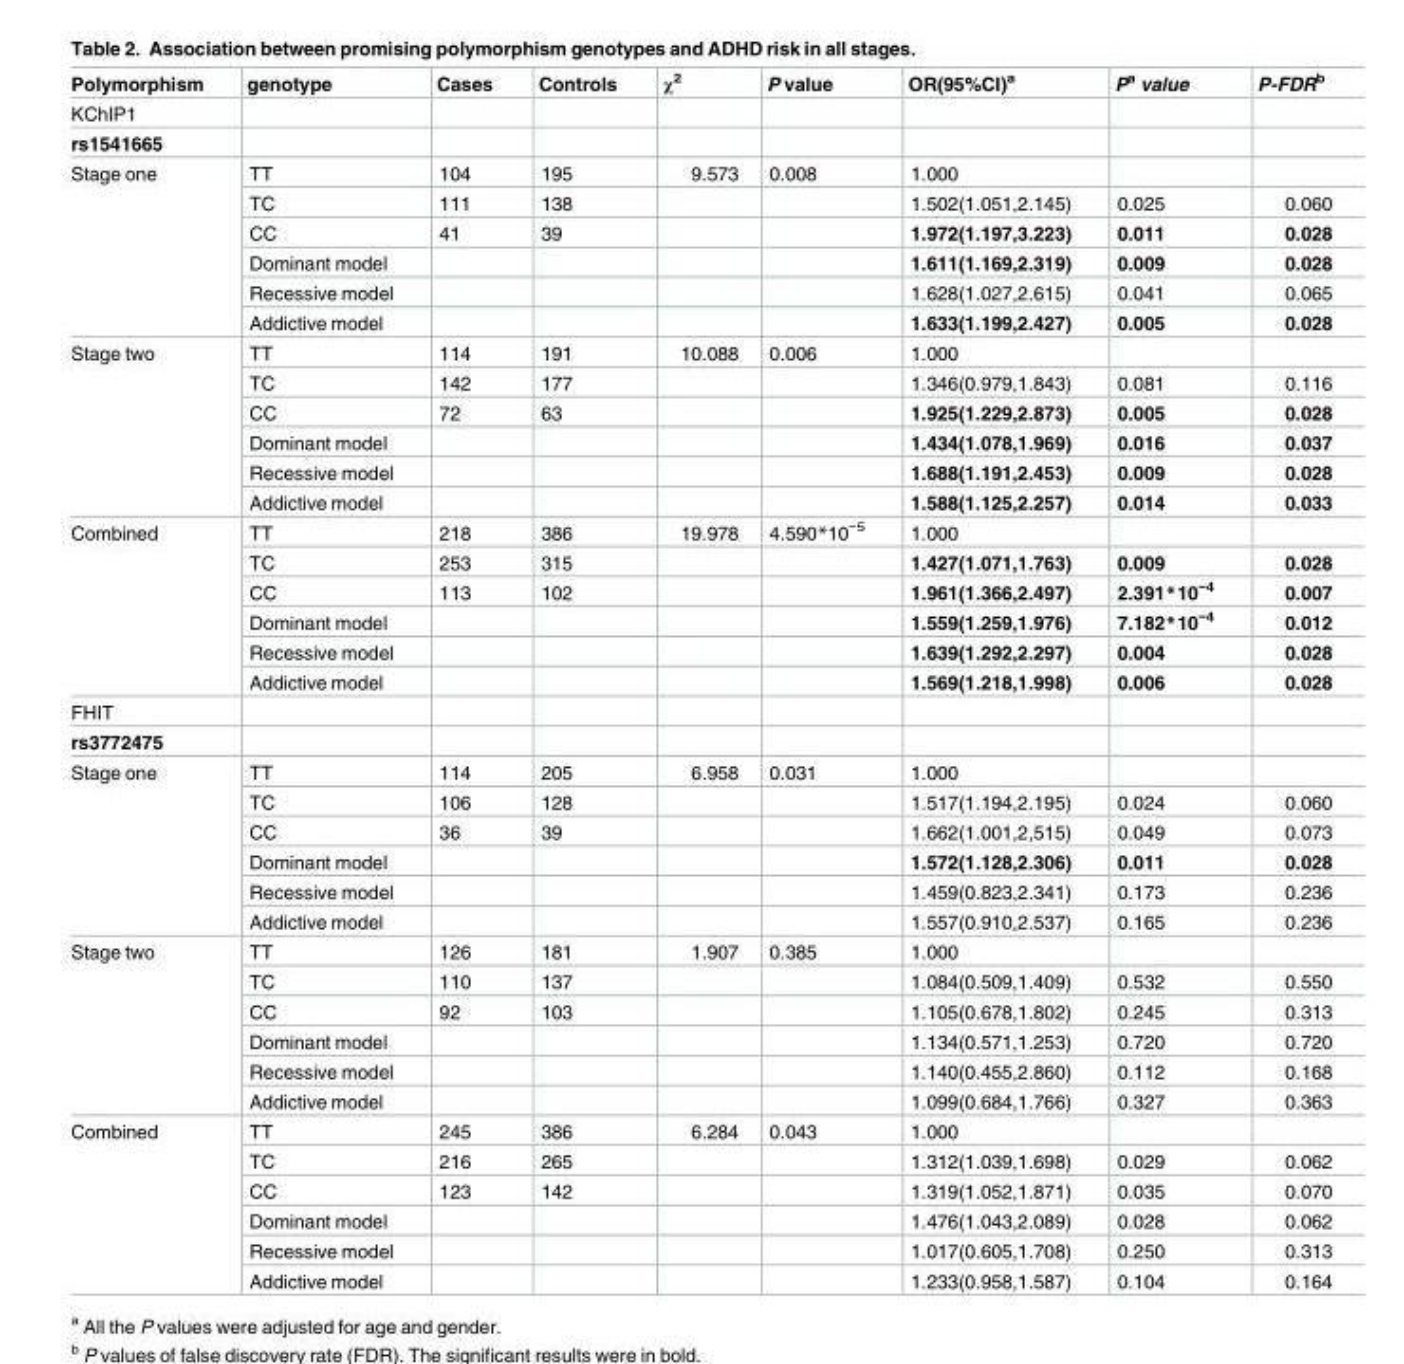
<table><thead><tr><td>Polymorphism</td><td>genotype</td><td>Cases</td><td>Controls</td><td>χ<sup>2</sup></td><td>P value</td><td>OR(95%CI)<sup>a</sup></td><td>P<sup>a</sup> value</td><td>P-FDR<sup>b</sup></td></tr></thead><tbody><tr><td colspan="9">KChIP1</td></tr><tr><td colspan="9">rs1541665</td></tr><tr><td rowspan="6">Stage one</td><td>TT</td><td>104</td><td>195</td><td>9.573</td><td>0.008</td><td>1.000</td><td></td><td></td></tr><tr><td>TC</td><td>111</td><td>138</td><td></td><td></td><td>1.502(1.051,2.145)</td><td>0.025</td><td>0.060</td></tr><tr><td>CC</td><td>41</td><td>39</td><td></td><td></td><td>1.972(1.197,3.223)</td><td>0.011</td><td>0.028</td></tr><tr><td>Dominant model</td><td></td><td></td><td></td><td></td><td>1.611(1.169,2.319)</td><td>0.009</td><td>0.028</td></tr><tr><td>Recessive model</td><td></td><td></td><td></td><td></td><td>1.628(1.027,2.615)</td><td>0.041</td><td>0.065</td></tr><tr><td>Addictive model</td><td></td><td></td><td></td><td></td><td>1.633(1.199,2.427)</td><td>0.005</td><td>0.028</td></tr><tr><td rowspan="6">Stage two</td><td>TT</td><td>114</td><td>191</td><td>10.088</td><td>0.006</td><td>1.000</td><td></td><td></td></tr><tr><td>TC</td><td>142</td><td>177</td><td></td><td></td><td>1.346(0.979,1.843)</td><td>0.081</td><td>0.116</td></tr><tr><td>CC</td><td>72</td><td>63</td><td></td><td></td><td>1.925(1.229,2.873)</td><td>0.005</td><td>0.028</td></tr><tr><td>Dominant model</td><td></td><td></td><td></td><td></td><td>1.434(1.078,1.969)</td><td>0.016</td><td>0.037</td></tr><tr><td>Recessive model</td><td></td><td></td><td></td><td></td><td>1.688(1.191,2.453)</td><td>0.009</td><td>0.028</td></tr><tr><td>Addictive model</td><td></td><td></td><td></td><td></td><td>1.588(1.125,2.257)</td><td>0.014</td><td>0.033</td></tr><tr><td rowspan="6">Combined</td><td>TT</td><td>218</td><td>386</td><td>19.978</td><td>4.590*10<sup>−5</sup></td><td>1.000</td><td></td><td></td></tr><tr><td>TC</td><td>253</td><td>315</td><td></td><td></td><td>1.427(1.071,1.763)</td><td>0.009</td><td>0.028</td></tr><tr><td>CC</td><td>113</td><td>102</td><td></td><td></td><td>1.961(1.366,2.497)</td><td>2.391*10<sup>−4</sup></td><td>0.007</td></tr><tr><td>Dominant model</td><td></td><td></td><td></td><td></td><td>1.559(1.259,1.976)</td><td>7.182*10<sup>−4</sup></td><td>0.012</td></tr><tr><td>Recessive model</td><td></td><td></td><td></td><td></td><td>1.639(1.292,2.297)</td><td>0.004</td><td>0.028</td></tr><tr><td>Addictive model</td><td></td><td></td><td></td><td></td><td>1.569(1.218,1.998)</td><td>0.006</td><td>0.028</td></tr><tr><td colspan="9">FHIT</td></tr><tr><td colspan="9">rs3772475</td></tr><tr><td rowspan="6">Stage one</td><td>TT</td><td>114</td><td>205</td><td>6.958</td><td>0.031</td><td>1.000</td><td></td><td></td></tr><tr><td>TC</td><td>106</td><td>128</td><td></td><td></td><td>1.517(1.194,2.195)</td><td>0.024</td><td>0.060</td></tr><tr><td>CC</td><td>36</td><td>39</td><td></td><td></td><td>1.662(1.001,2,515)</td><td>0.049</td><td>0.073</td></tr><tr><td>Dominant model</td><td></td><td></td><td></td><td></td><td>1.572(1.128,2.306)</td><td>0.011</td><td>0.028</td></tr><tr><td>Recessive model</td><td></td><td></td><td></td><td></td><td>1.459(0.823,2.341)</td><td>0.173</td><td>0.236</td></tr><tr><td>Addictive model</td><td></td><td></td><td></td><td></td><td>1.557(0.910,2.537)</td><td>0.165</td><td>0.236</td></tr><tr><td rowspan="6">Stage two</td><td>TT</td><td>126</td><td>181</td><td>1.907</td><td>0.385</td><td>1.000</td><td></td><td></td></tr><tr><td>TC</td><td>110</td><td>137</td><td></td><td></td><td>1.084(0.509,1.409)</td><td>0.532</td><td>0.550</td></tr><tr><td>CC</td><td>92</td><td>103</td><td></td><td></td><td>1.105(0.678,1.802)</td><td>0.245</td><td>0.313</td></tr><tr><td>Dominant model</td><td></td><td></td><td></td><td></td><td>1.134(0.571,1.253)</td><td>0.720</td><td>0.720</td></tr><tr><td>Recessive model</td><td></td><td></td><td></td><td></td><td>1.140(0.455,2.860)</td><td>0.112</td><td>0.168</td></tr><tr><td>Addictive model</td><td></td><td></td><td></td><td></td><td>1.099(0.684,1.766)</td><td>0.327</td><td>0.363</td></tr><tr><td rowspan="6">Combined</td><td>TT</td><td>245</td><td>386</td><td>6.284</td><td>0.043</td><td>1.000</td><td></td><td></td></tr><tr><td>TC</td><td>216</td><td>265</td><td></td><td></td><td>1.312(1.039,1.698)</td><td>0.029</td><td>0.062</td></tr><tr><td>CC</td><td>123</td><td>142</td><td></td><td></td><td>1.319(1.052,1.871)</td><td>0.035</td><td>0.070</td></tr><tr><td>Dominant model</td><td></td><td></td><td></td><td></td><td>1.476(1.043,2.089)</td><td>0.028</td><td>0.062</td></tr><tr><td>Recessive model</td><td></td><td></td><td></td><td></td><td>1.017(0.605,1.708)</td><td>0.250</td><td>0.313</td></tr><tr><td>Addictive model</td><td></td><td></td><td></td><td></td><td>1.233(0.958,1.587)</td><td>0.104</td><td>0.164</td></tr></tbody></table>